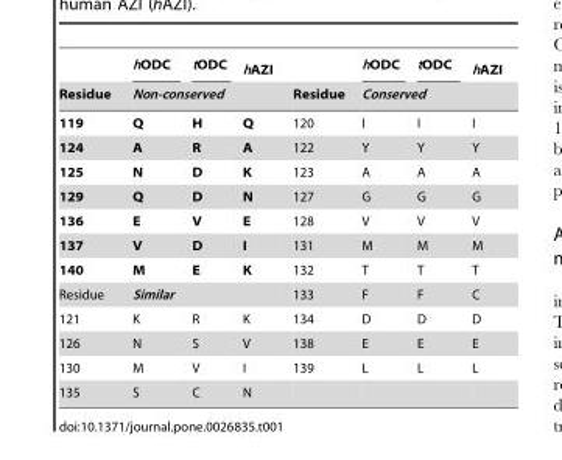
<table><thead><tr><td rowspan="2">Residue</td><td>hODC</td><td>tODC</td><td>hAZI</td><td rowspan="2">Residue</td><td>hODC</td><td>tODC</td><td>hAZI</td></tr><tr><td colspan="3">Non-conserved</td><td colspan="3">Conserved</td></tr></thead><tbody><tr><td>119</td><td>Q</td><td>H</td><td>Q</td><td>120</td><td>I</td><td>I</td><td>I</td></tr><tr><td>124</td><td>A</td><td>R</td><td>A</td><td>122</td><td>Y</td><td>Y</td><td>Y</td></tr><tr><td>125</td><td>N</td><td>D</td><td>K</td><td>123</td><td>A</td><td>A</td><td>A</td></tr><tr><td>129</td><td>Q</td><td>D</td><td>N</td><td>127</td><td>G</td><td>G</td><td>G</td></tr><tr><td>136</td><td>E</td><td>V</td><td>E</td><td>128</td><td>V</td><td>V</td><td>V</td></tr><tr><td>137</td><td>V</td><td>D</td><td>I</td><td>131</td><td>M</td><td>M</td><td>M</td></tr><tr><td>140</td><td>M</td><td>E</td><td>K</td><td>132</td><td>T</td><td>T</td><td>T</td></tr><tr><td>Residue</td><td colspan="3">Similar</td><td>133</td><td>F</td><td>F</td><td>C</td></tr><tr><td>121</td><td>K</td><td>R</td><td>K</td><td>134</td><td>D</td><td>D</td><td>D</td></tr><tr><td>126</td><td>N</td><td>S</td><td>V</td><td>138</td><td>E</td><td>E</td><td>E</td></tr><tr><td>130</td><td>M</td><td>V</td><td>I</td><td>139</td><td>L</td><td>L</td><td>L</td></tr><tr><td>135</td><td>S</td><td>C</td><td>N</td><td></td><td></td><td></td><td></td></tr></tbody></table>